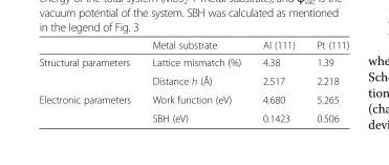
<table><thead><tr><td></td><td>Metal substrate</td><td>Al (111)</td><td>Pt (111)</td></tr></thead><tbody><tr><td rowspan="2">Structural parameters</td><td>Lattice mismatch (%)</td><td>4.38</td><td>1.39</td></tr><tr><td>Distance h (Å)</td><td>2.517</td><td>2.218</td></tr><tr><td rowspan="2">Electronic parameters</td><td>Work function (eV)</td><td>4.680</td><td>5.265</td></tr><tr><td>SBH (eV)</td><td>0.1423</td><td>0.506</td></tr></tbody></table>